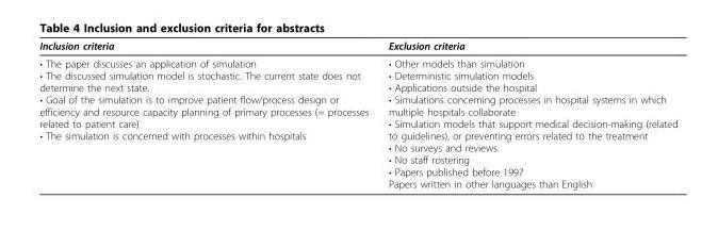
<table><thead><tr><td>Inclusion criteria</td><td>Exclusion criteria</td></tr></thead><tbody><tr><td>• The paper discusses an application of simulation • The discussed simulation model is stochastic. The current state does not determine the next state. • Goal of the simulation is to improve patient flow/process design or efficiency and resource capacity planning of primary processes (= processes related to patient care) • The simulation is concerned with processes within hospitals</td><td>• Other models than simulation • Deterministic simulation models • Applications outside the hospital • Simulations concerning processes in hospital systems in which multiple hospitals collaborate • Simulation models that support medical decision-making (related to guidelines), or preventing errors related to the treatment • No surveys and reviews • No staff rostering • Papers published before 1997 Papers written in other languages than English</td></tr></tbody></table>